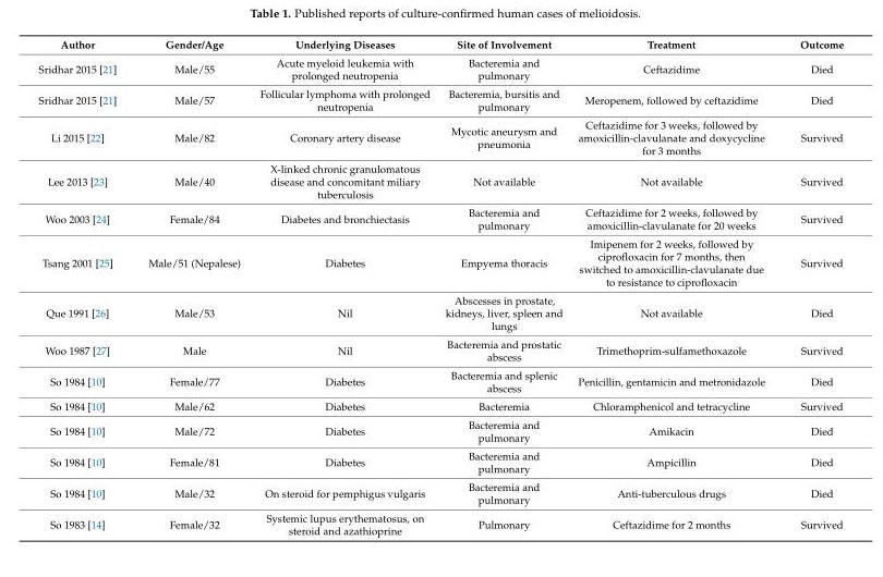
<table><thead><tr><td>Author</td><td>Gender/Age</td><td>Underlying Diseases</td><td>Site of Involvement</td><td>Treatment</td><td>Outcome</td></tr></thead><tbody><tr><td>Sridhar 2015 [21]</td><td>Male/55</td><td>Acute myeloid leukemia with prolonged neutropenia</td><td>Bacteremia and pulmonary</td><td>Ceftazidime</td><td>Died</td></tr><tr><td>Sridhar 2015 [21]</td><td>Male/57</td><td>Follicular lymphoma with prolonged neutropenia</td><td>Bacteremia, bursitis and pulmonary</td><td>Meropenem, followed by ceftazidime</td><td>Died</td></tr><tr><td>Li 2015 [22]</td><td>Male/82</td><td>Coronary artery disease</td><td>Mycotic aneurysm and pneumonia</td><td>Ceftazidime for 3 weeks, followed by amoxicillin-clavulanate and doxycycline for 3 months</td><td>Survived</td></tr><tr><td>Lee 2013 [23]</td><td>Male/40</td><td>X-linked chronic granulomatous disease and concomitant miliary tuberculosis</td><td>Not available</td><td>Not available</td><td>Survived</td></tr><tr><td>Woo 2003 [24]</td><td>Female/84</td><td>Diabetes and bronchiectasis</td><td>Bacteremia and pulmonary</td><td>Ceftazidime for 2 weeks, followed by amoxicillin-clavulanate for 20 weeks</td><td>Survived</td></tr><tr><td>Tsang 2001 [25]</td><td>Male/51 (Nepalese)</td><td>Diabetes</td><td>Empyema thoracis</td><td>Imipenem for 2 weeks, followed by ciprofloxacin for 7 months, then switched to amoxicillin-clavulanate due to resistance to ciprofloxacin</td><td>Survived</td></tr><tr><td>Que 1991 [26]</td><td>Male/53</td><td>Nil</td><td>Abscesses in prostate, kidneys, liver, spleen and lungs</td><td>Not available</td><td>Died</td></tr><tr><td>Woo 1987 [27]</td><td>Male</td><td>Nil</td><td>Bacteremia and prostatic abscess</td><td>Trimethoprim-sulfamethoxazole</td><td>Survived</td></tr><tr><td>So 1984 [10]</td><td>Female/77</td><td>Diabetes</td><td>Bacteremia and splenic abscess</td><td>Penicillin, gentamicin and metronidazole</td><td>Died</td></tr><tr><td>So 1984 [10]</td><td>Male/62</td><td>Diabetes</td><td>Bacteremia</td><td>Chloramphenicol and tetracycline</td><td>Survived</td></tr><tr><td>So 1984 [10]</td><td>Male/72</td><td>Diabetes</td><td>Bacteremia and pulmonary</td><td>Amikacin</td><td>Died</td></tr><tr><td>So 1984 [10]</td><td>Female/81</td><td>Diabetes</td><td>Bacteremia and pulmonary</td><td>Ampicillin</td><td>Died</td></tr><tr><td>So 1984 [10]</td><td>Male/32</td><td>On steroid for pemphigus vulgaris</td><td>Bacteremia and pulmonary</td><td>Anti-tuberculous drugs</td><td>Died</td></tr><tr><td>So 1983 [14]</td><td>Female/32</td><td>Systemic lupus erythematosus, on steroid and azathioprine</td><td>Pulmonary</td><td>Ceftazidime for 2 months</td><td>Survived</td></tr></tbody></table>